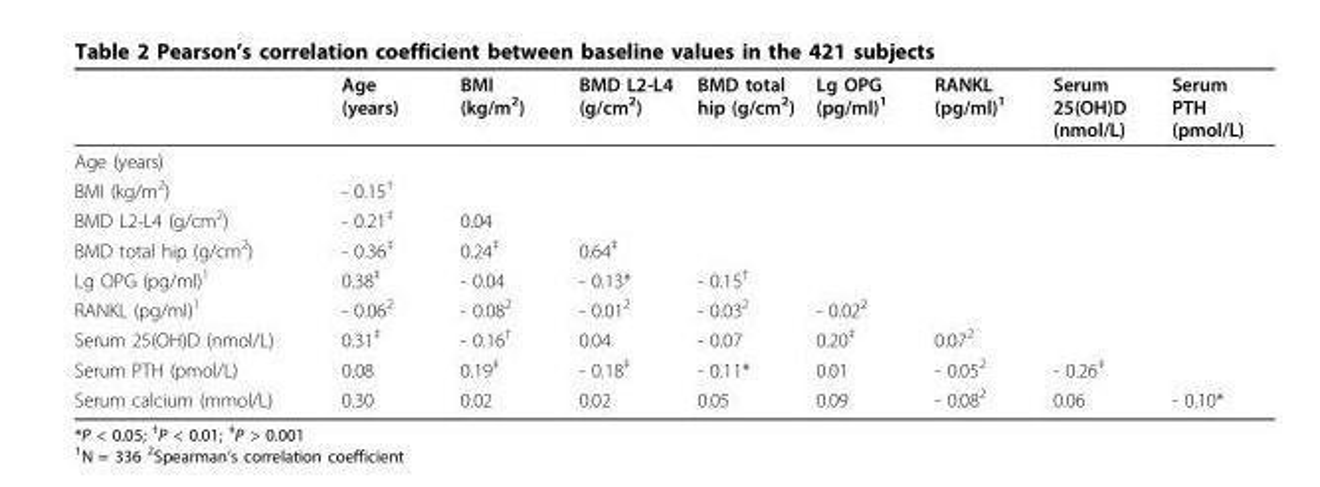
<table><thead><tr><td></td><td>Age (years)</td><td>BMI (kg/m<sup>2</sup>)</td><td>BMD L2-L4 (g/cm<sup>2</sup>)</td><td>BMD total hip (g/cm<sup>2</sup>)</td><td>Lg OPG (pg/ml)<sup>1</sup></td><td>RANKL (pg/ml)<sup>1</sup></td><td>Serum 25(OH)D (nmol/L)</td><td>Serum PTH (pmol/L)</td></tr></thead><tbody><tr><td colspan="9">Age (years)</td></tr><tr><td>BMI (kg/m<sup>2</sup>)</td><td>- 0.15<sup>†</sup></td><td></td><td></td><td></td><td></td><td></td><td></td><td></td></tr><tr><td>BMD L2-L4 (g/cm<sup>2</sup>)</td><td>- 0.21<sup>‡</sup></td><td>0.04</td><td></td><td></td><td></td><td></td><td></td><td></td></tr><tr><td>BMD total hip (g/cm<sup>2</sup>)</td><td>- 0.36<sup>‡</sup></td><td>0.24<sup>‡</sup></td><td>0.64<sup>‡</sup></td><td></td><td></td><td></td><td></td><td></td></tr><tr><td>Lg OPG (pg/ml)<sup>1</sup></td><td>0.38<sup>‡</sup></td><td>- 0.04</td><td>- 0.13*</td><td>- 0.15<sup>†</sup></td><td></td><td></td><td></td><td></td></tr><tr><td>RANKL (pg/ml)<sup>1</sup></td><td>- 0.06<sup>2</sup></td><td>- 0.08<sup>2</sup></td><td>- 0.01<sup>2</sup></td><td>- 0.03<sup>2</sup></td><td>- 0.02<sup>2</sup></td><td></td><td></td><td></td></tr><tr><td>Serum 25(OH)D (nmol/L)</td><td>0.31<sup>‡</sup></td><td>- 0.16<sup>†</sup></td><td>0.04</td><td>- 0.07</td><td>0.20<sup>‡</sup></td><td>0.07<sup>2</sup></td><td></td><td></td></tr><tr><td>Serum PTH (pmol/L)</td><td>0.08</td><td>0.19<sup>‡</sup></td><td>- 0.18<sup>‡</sup></td><td>- 0.11*</td><td>0.01</td><td>- 0.05<sup>2</sup></td><td>- 0.26<sup>‡</sup></td><td></td></tr><tr><td>Serum calcium (mmol/L)</td><td>0.30</td><td>0.02</td><td>0.02</td><td>0.05</td><td>0.09</td><td>- 0.08<sup>2</sup></td><td>0.06</td><td>- 0.10*</td></tr></tbody></table>